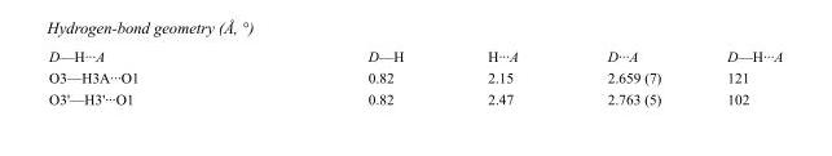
<table><tbody><tr><td>D—H···A</td><td>D—H</td><td>H···A</td><td>D···A</td><td>D—H···A</td></tr><tr><td>O3—H3A···O1</td><td>0.82</td><td>2.15</td><td>2.659 (7)</td><td>121</td></tr><tr><td>O3&#x27;—H3&#x27;···O1</td><td>0.82</td><td>2.47</td><td>2.763 (5)</td><td>102</td></tr></tbody></table>